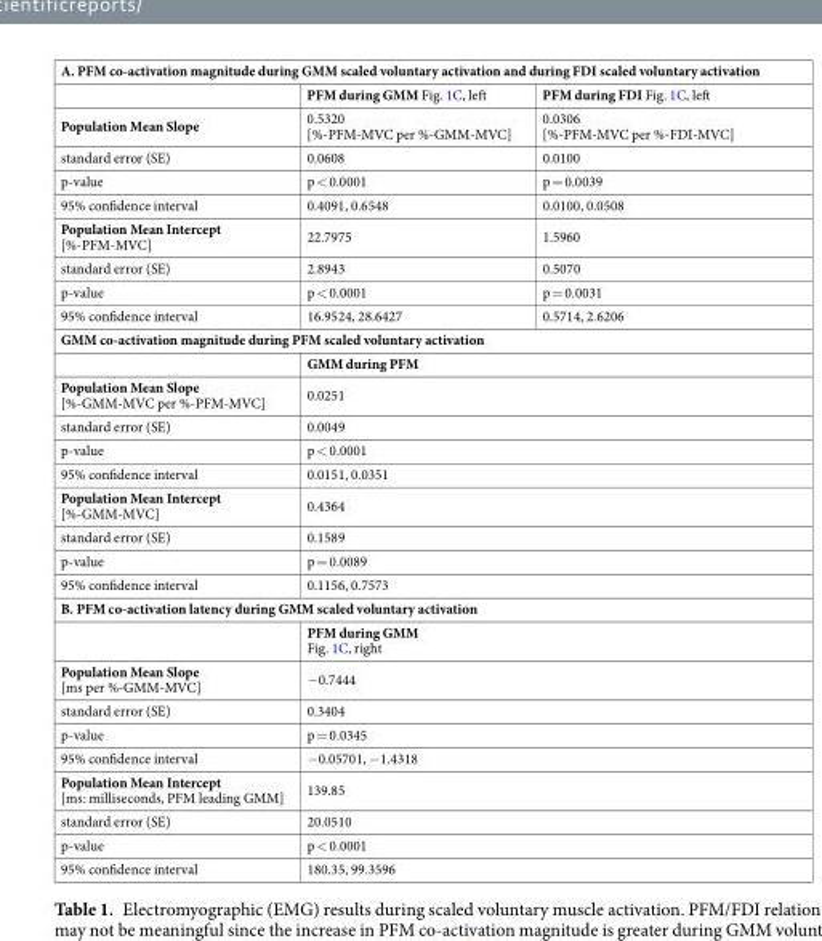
<table><tbody><tr><td colspan="3">A. PFM co-activation magnitude during GMM scaled voluntary activation and during FDI scaled voluntary activation</td></tr><tr><td></td><td>PFM during GMM Fig. 1C, left</td><td>PFM during FDI Fig. 1C, left</td></tr><tr><td>Population Mean Slope</td><td>0.5320 [%-PFM-MVC per %-GMM-MVC]</td><td>0.0306 [%-PFM-MVC per %-FDI-MVC]</td></tr><tr><td>standard error (SE)</td><td>0.0608</td><td>0.0100</td></tr><tr><td>p-value</td><td>p &lt; 0.0001</td><td>p = 0.0039</td></tr><tr><td>95% confidence interval</td><td>0.4091, 0.6548</td><td>0.0100, 0.0508</td></tr><tr><td>Population Mean Intercept [%-PFM-MVC]</td><td>22.7975</td><td>1.5960</td></tr><tr><td>standard error (SE)</td><td>2.8943</td><td>0.5070</td></tr><tr><td>p-value</td><td>p &lt; 0.0001</td><td>p = 0.0031</td></tr><tr><td>95% confidence interval</td><td>16.9524, 28.6427</td><td>0.5714, 2.6206</td></tr><tr><td colspan="3">GMM co-activation magnitude during PFM scaled voluntary activation</td></tr><tr><td></td><td colspan="2">GMM during PFM</td></tr><tr><td>Population Mean Slope [%-GMM-MVC per %-PFM-MVC]</td><td colspan="2">0.0251</td></tr><tr><td>standard error (SE)</td><td colspan="2">0.0049</td></tr><tr><td>p-value</td><td colspan="2">p &lt; 0.0001</td></tr><tr><td>95% confidence interval</td><td colspan="2">0.0151, 0.0351</td></tr><tr><td>Population Mean Intercept [%-GMM-MVC]</td><td colspan="2">0.4364</td></tr><tr><td>standard error (SE)</td><td colspan="2">0.1589</td></tr><tr><td>p-value</td><td colspan="2">p = 0.0089</td></tr><tr><td>95% confidence interval</td><td colspan="2">0.1156, 0.7573</td></tr><tr><td colspan="3">B. PFM co-activation latency during GMM scaled voluntary activation</td></tr><tr><td></td><td colspan="2">PFM during GMM Fig. 1C, right</td></tr><tr><td>Population Mean Slope [ms per %-GMM-MVC]</td><td colspan="2">−0.7444</td></tr><tr><td>standard error (SE)</td><td colspan="2">0.3404</td></tr><tr><td>p-value</td><td colspan="2">p = 0.0345</td></tr><tr><td>95% confidence interval</td><td colspan="2">−0.05701, −1.4318</td></tr><tr><td>Population Mean Intercept [ms: milliseconds, PFM leading GMM]</td><td colspan="2">139.85</td></tr><tr><td>standard error (SE)</td><td colspan="2">20.0510</td></tr><tr><td>p-value</td><td colspan="2">p &lt; 0.0001</td></tr><tr><td>95% confidence interval</td><td colspan="2">180.35, 99.3596</td></tr></tbody></table>